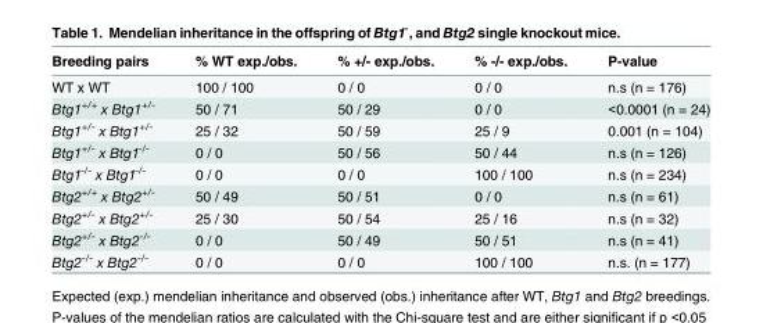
<table><thead><tr><td>Breeding pairs</td><td>% WT exp./obs.</td><td>% +/- exp./obs.</td><td>% -/- exp./obs.</td><td>P-value</td></tr></thead><tbody><tr><td>WT x WT</td><td>100 / 100</td><td>0 / 0</td><td>0 / 0</td><td>n.s (n = 176)</td></tr><tr><td>Btg1<sup>+/+</sup> x Btg1<sup>+/-</sup></td><td>50 / 71</td><td>50 / 29</td><td>0 / 0</td><td>&lt;0.0001 (n = 24)</td></tr><tr><td>Btg1<sup>+/-</sup> x Btg1<sup>+/-</sup></td><td>25 / 32</td><td>50 / 59</td><td>25 / 9</td><td>0.001 (n = 104)</td></tr><tr><td>Btg1<sup>+/-</sup> x Btg1<sup>-/-</sup></td><td>0 / 0</td><td>50 / 56</td><td>50 / 44</td><td>n.s (n = 126)</td></tr><tr><td>Btg1<sup>-/-</sup> x Btg1<sup>-/-</sup></td><td>0 / 0</td><td>0 / 0</td><td>100 / 100</td><td>n.s (n = 234)</td></tr><tr><td>Btg2<sup>+/+</sup> x Btg2<sup>+/-</sup></td><td>50 / 49</td><td>50 / 51</td><td>0 / 0</td><td>n.s (n = 61)</td></tr><tr><td>Btg2<sup>+/-</sup> x Btg2<sup>+/-</sup></td><td>25 / 30</td><td>50 / 54</td><td>25 / 16</td><td>n.s (n = 32)</td></tr><tr><td>Btg2<sup>+/-</sup> x Btg2<sup>-/-</sup></td><td>0 / 0</td><td>50 / 49</td><td>50 / 51</td><td>n.s (n = 41)</td></tr><tr><td>Btg2<sup>-/-</sup> x Btg2<sup>-/-</sup></td><td>0 / 0</td><td>0 / 0</td><td>100 / 100</td><td>n.s. (n = 177)</td></tr></tbody></table>